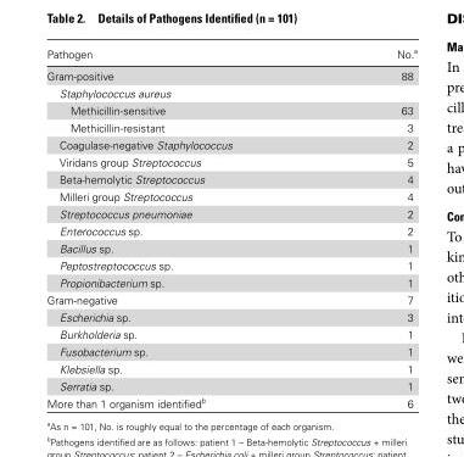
<table><thead><tr><td>Pathogen</td><td>No.a</td></tr></thead><tbody><tr><td>Gram-positive</td><td>88</td></tr><tr><td colspan="2">Staphylococcus aureus</td></tr><tr><td>Methicillin-sensitive</td><td>63</td></tr><tr><td>Methicillin-resistant</td><td>3</td></tr><tr><td>Coagulase-negative Staphylococcus</td><td>2</td></tr><tr><td>Viridans group Streptococcus</td><td>5</td></tr><tr><td>Beta-hemolytic Streptococcus</td><td>4</td></tr><tr><td>Milleri group Streptococcus</td><td>4</td></tr><tr><td>Streptococcus pneumoniae</td><td>2</td></tr><tr><td>Enterococcus sp.</td><td>2</td></tr><tr><td>Bacillus sp.</td><td>1</td></tr><tr><td>Peptostreptococcus sp.</td><td>1</td></tr><tr><td>Propionibacterium sp.</td><td>1</td></tr><tr><td>Gram-negative</td><td>7</td></tr><tr><td>Escherichia sp.</td><td>3</td></tr><tr><td>Burkholderia sp.</td><td>1</td></tr><tr><td>Fusobacterium sp.</td><td>1</td></tr><tr><td>Klebsiella sp.</td><td>1</td></tr><tr><td>Serratia sp.</td><td>1</td></tr><tr><td>More than 1 organism identifiedb</td><td>6</td></tr></tbody></table>